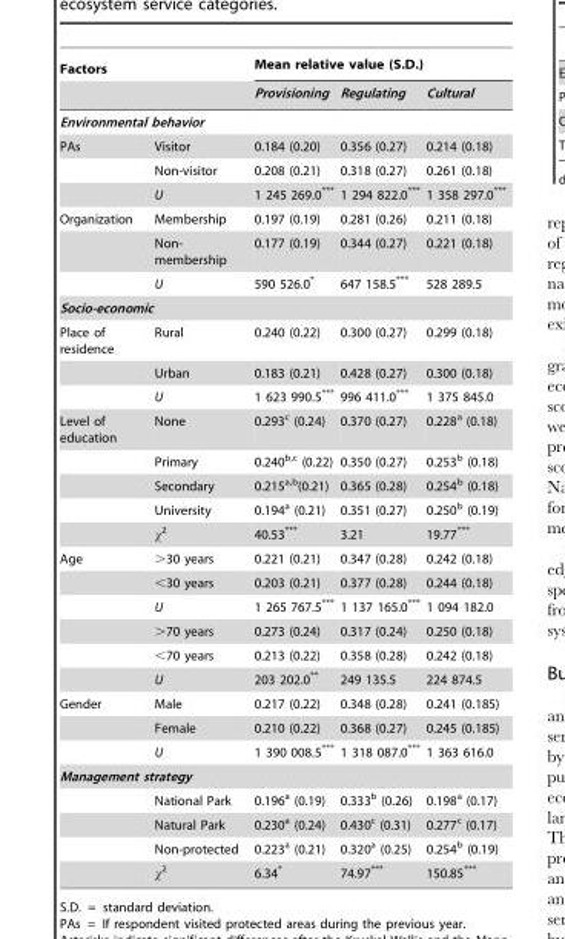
<table><thead><tr><td rowspan="2">Factors</td><td rowspan="2"></td><td colspan="3">Mean relative value (S.D.)</td></tr><tr><td>Provisioning</td><td>Regulating</td><td>Cultural</td></tr></thead><tbody><tr><td colspan="5">Environmental behavior</td></tr><tr><td rowspan="3">PAs</td><td>Visitor</td><td>0.184 (0.20)</td><td>0.356 (0.27)</td><td>0.214 (0.18)</td></tr><tr><td>Non-visitor</td><td>0.208 (0.21)</td><td>0.318 (0.27)</td><td>0.261 (0.18)</td></tr><tr><td>U</td><td>1 245 269.0***</td><td>1 294 822.0***</td><td>1 358 297.0***</td></tr><tr><td rowspan="3">Organization</td><td>Membership</td><td>0.197 (0.19)</td><td>0.281 (0.26)</td><td>0.211 (0.18)</td></tr><tr><td>Non- membership</td><td>0.177 (0.19)</td><td>0.344 (0.27)</td><td>0.221 (0.18)</td></tr><tr><td>U</td><td>590 526.0*</td><td>647 158.5***</td><td>528 289.5</td></tr><tr><td colspan="5">Socio-economic</td></tr><tr><td rowspan="3">Place of residence</td><td>Rural</td><td>0.240 (0.22)</td><td>0.300 (0.27)</td><td>0.299 (0.18)</td></tr><tr><td>Urban</td><td>0.183 (0.21)</td><td>0.428 (0.27)</td><td>0.300 (0.18)</td></tr><tr><td>U</td><td>1 623 990.5***</td><td>996 411.0***</td><td>1 375 845.0</td></tr><tr><td rowspan="5">Level of education</td><td>None</td><td>0.293<sup>c</sup> (0.24)</td><td>0.370 (0.27)</td><td>0.228<sup>a</sup> (0.18)</td></tr><tr><td>Primary</td><td>0.240<sup>b,c</sup> (0.22)</td><td>0.350 (0.27)</td><td>0.253<sup>b</sup> (0.18)</td></tr><tr><td>Secondary</td><td>0.215<sup>a,b</sup>(0.21)</td><td>0.365 (0.28)</td><td>0.254<sup>b</sup> (0.18)</td></tr><tr><td>University</td><td>0.194<sup>a</sup> (0.21)</td><td>0.351 (0.27)</td><td>0.250<sup>b</sup> (0.19)</td></tr><tr><td>χ<sup>2</sup></td><td>40.53***</td><td>3.21</td><td>19.77***</td></tr><tr><td rowspan="6">Age</td><td>&gt;30 years</td><td>0.221 (0.21)</td><td>0.347 (0.28)</td><td>0.242 (0.18)</td></tr><tr><td>&lt;30 years</td><td>0.203 (0.21)</td><td>0.377 (0.28)</td><td>0.244 (0.18)</td></tr><tr><td>U</td><td>1 265 767.5***</td><td>1 137 165.0***</td><td>1 094 182.0</td></tr><tr><td>&gt;70 years</td><td>0.273 (0.24)</td><td>0.317 (0.24)</td><td>0.250 (0.18)</td></tr><tr><td>&lt;70 years</td><td>0.213 (0.22)</td><td>0.358 (0.28)</td><td>0.242 (0.18)</td></tr><tr><td>U</td><td>203 202.0**</td><td>249 135.5</td><td>224 874.5</td></tr><tr><td rowspan="3">Gender</td><td>Male</td><td>0.217 (0.22)</td><td>0.348 (0.28)</td><td>0.241 (0.185)</td></tr><tr><td>Female</td><td>0.210 (0.22)</td><td>0.368 (0.27)</td><td>0.245 (0.185)</td></tr><tr><td>U</td><td>1 390 008.5***</td><td>1 318 087.0***</td><td>1 363 616.0</td></tr><tr><td colspan="5">Management strategy</td></tr><tr><td></td><td>National Park</td><td>0.196<sup>a</sup> (0.19)</td><td>0.333<sup>b</sup> (0.26)</td><td>0.198<sup>a</sup> (0.17)</td></tr><tr><td></td><td>Natural Park</td><td>0.230<sup>a</sup> (0.24)</td><td>0.430<sup>c</sup> (0.31)</td><td>0.277<sup>c</sup> (0.17)</td></tr><tr><td></td><td>Non-protected</td><td>0.223<sup>a</sup> (0.21)</td><td>0.320<sup>a</sup> (0.25)</td><td>0.254<sup>b</sup> (0.19)</td></tr><tr><td></td><td>χ<sup>2</sup></td><td>6.34*</td><td>74.97***</td><td>150.85***</td></tr></tbody></table>